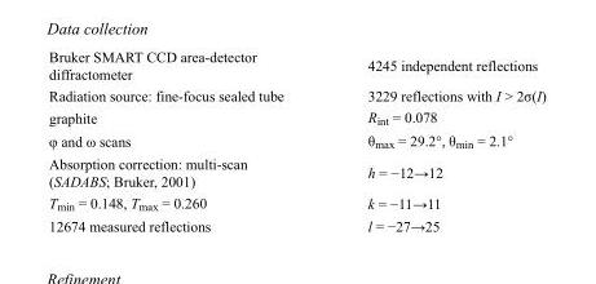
<table><tbody><tr><td>Bruker SMART CCD area-detector diffractometer</td><td>4245 independent reflections</td></tr><tr><td>Radiation source: fine-focus sealed tube</td><td>3229 reflections with I &gt; 2σ(I)</td></tr><tr><td>graphite</td><td>R<sub>int</sub> = 0.078</td></tr><tr><td>φ and ω scans</td><td>θ<sub>max</sub> = 29.2°, θ<sub>min</sub> = 2.1°</td></tr><tr><td>Absorption correction: multi-scan (SADABS; Bruker, 2001)</td><td>h = −12→12</td></tr><tr><td>T<sub>min</sub> = 0.148, T<sub>max</sub> = 0.260</td><td>k = −11→11</td></tr><tr><td>12674 measured reflections</td><td>l = −27→25</td></tr></tbody></table>